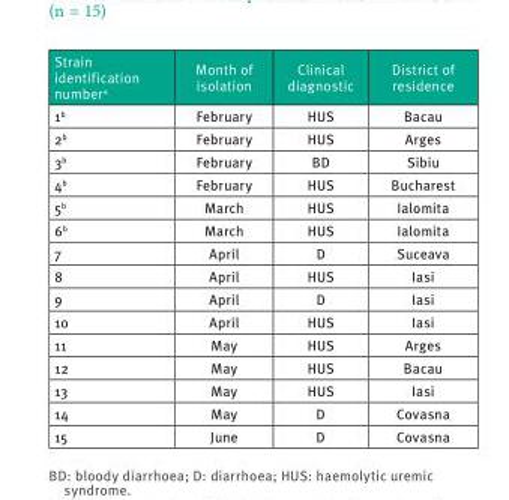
<table><thead><tr><td>Strain identification number<sup>a</sup></td><td>Month of isolation</td><td>Clinical diagnostic</td><td>District of residence</td></tr></thead><tbody><tr><td>1<sup>b</sup></td><td>February</td><td>HUS</td><td>Bacau</td></tr><tr><td>2<sup>b</sup></td><td>February</td><td>HUS</td><td>Arges</td></tr><tr><td>3<sup>b</sup></td><td>February</td><td>BD</td><td>Sibiu</td></tr><tr><td>4<sup>b</sup></td><td>February</td><td>HUS</td><td>Bucharest</td></tr><tr><td>5<sup>b</sup></td><td>March</td><td>HUS</td><td>Ialomita</td></tr><tr><td>6<sup>b</sup></td><td>March</td><td>HUS</td><td>Ialomita</td></tr><tr><td>7</td><td>April</td><td>D</td><td>Suceava</td></tr><tr><td>8</td><td>April</td><td>HUS</td><td>Iasi</td></tr><tr><td>9</td><td>April</td><td>D</td><td>Iasi</td></tr><tr><td>10</td><td>April</td><td>HUS</td><td>Iasi</td></tr><tr><td>11</td><td>May</td><td>HUS</td><td>Arges</td></tr><tr><td>12</td><td>May</td><td>HUS</td><td>Bacau</td></tr><tr><td>13</td><td>May</td><td>HUS</td><td>Iasi</td></tr><tr><td>14</td><td>May</td><td>D</td><td>Covasna</td></tr><tr><td>15</td><td>June</td><td>D</td><td>Covasna</td></tr></tbody></table>